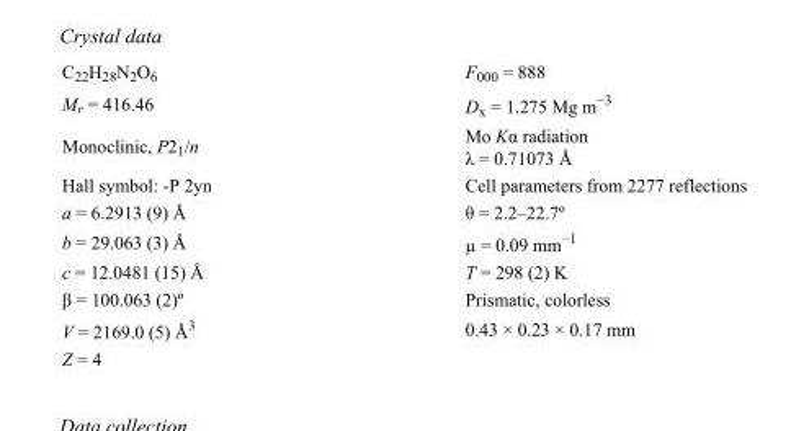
<table><tbody><tr><td>C<sub>22</sub>H<sub>28</sub>N<sub>2</sub>O<sub>6</sub></td><td>F<sub>000</sub> = 888</td></tr><tr><td>M<sub>r</sub> = 416.46</td><td>D<sub>x</sub> = 1.275 Mg m<sup>−3</sup></td></tr><tr><td>Monoclinic, P2<sub>1</sub>/n</td><td>Mo Kα radiation λ = 0.71073 Å</td></tr><tr><td>Hall symbol: -P 2yn</td><td>Cell parameters from 2277 reflections</td></tr><tr><td>a = 6.2913 (9) Å</td><td>θ = 2.2–22.7º</td></tr><tr><td>b = 29.063 (3) Å</td><td>µ = 0.09 mm<sup>−1</sup></td></tr><tr><td>c = 12.0481 (15) Å</td><td>T = 298 (2) K</td></tr><tr><td>β = 100.063 (2)º</td><td>Prismatic, colorless</td></tr><tr><td>V = 2169.0 (5) Å<sup>3</sup></td><td>0.43 × 0.23 × 0.17 mm</td></tr><tr><td>Z = 4</td><td></td></tr></tbody></table>